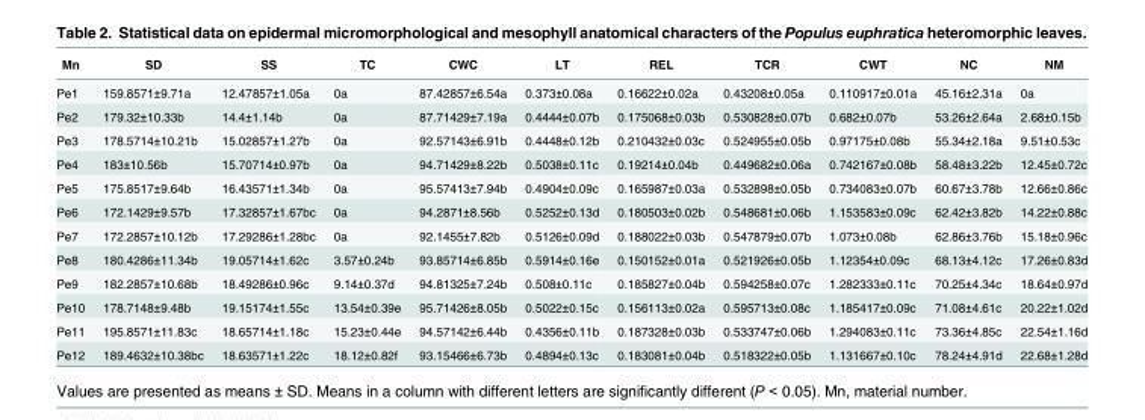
<table><thead><tr><td>Mn</td><td>SD</td><td>SS</td><td>TC</td><td>CWC</td><td>LT</td><td>REL</td><td>TCR</td><td>CWT</td><td>NC</td><td>NM</td></tr></thead><tbody><tr><td>Pe1</td><td>159.8571±9.71a</td><td>12.47857±1.05a</td><td>0a</td><td>87.42857±6.54a</td><td>0.373±0.08a</td><td>0.16622±0.02a</td><td>0.43208±0.05a</td><td>0.110917±0.01a</td><td>45.16±2.31a</td><td>0a</td></tr><tr><td>Pe2</td><td>179.32±10.33b</td><td>14.4±1.14b</td><td>0a</td><td>87.71429±7.19a</td><td>0.4444±0.07b</td><td>0.175068±0.03b</td><td>0.530828±0.07b</td><td>0.682±0.07b</td><td>53.26±2.64a</td><td>2.68±0.15b</td></tr><tr><td>Pe3</td><td>178.5714±10.21b</td><td>15.02857±1.27b</td><td>0a</td><td>92.57143±6.91b</td><td>0.4448±0.12b</td><td>0.210432±0.03c</td><td>0.524955±0.05b</td><td>0.97175±0.08b</td><td>55.34±2.18a</td><td>9.51±0.53c</td></tr><tr><td>Pe4</td><td>183±10.56b</td><td>15.70714±0.97b</td><td>0a</td><td>94.71429±8.22b</td><td>0.5038±0.11c</td><td>0.19214±0.04b</td><td>0.449682±0.06a</td><td>0.742167±0.08b</td><td>58.48±3.22b</td><td>12.45±0.72c</td></tr><tr><td>Pe5</td><td>175.8517±9.64b</td><td>16.43571±1.34b</td><td>0a</td><td>95.57413±7.94b</td><td>0.4904±0.09c</td><td>0.165987±0.03a</td><td>0.532898±0.05b</td><td>0.734083±0.07b</td><td>60.67±3.78b</td><td>12.66±0.86c</td></tr><tr><td>Pe6</td><td>172.1429±9.57b</td><td>17.32857±1.67bc</td><td>0a</td><td>94.2871±8.56b</td><td>0.5252±0.13d</td><td>0.180503±0.02b</td><td>0.548681±0.06b</td><td>1.153583±0.09c</td><td>62.42±3.82b</td><td>14.22±0.88c</td></tr><tr><td>Pe7</td><td>172.2857±10.12b</td><td>17.29286±1.28bc</td><td>0a</td><td>92.1455±7.82b</td><td>0.5126±0.09d</td><td>0.188022±0.03b</td><td>0.547879±0.07b</td><td>1.073±0.08b</td><td>62.86±3.76b</td><td>15.18±0.96c</td></tr><tr><td>Pe8</td><td>180.4286±11.34b</td><td>19.05714±1.62c</td><td>3.57±0.24b</td><td>93.85714±6.85b</td><td>0.5914±0.16e</td><td>0.150152±0.01a</td><td>0.521926±0.05b</td><td>1.12354±0.09c</td><td>68.13±4.12c</td><td>17.26±0.83d</td></tr><tr><td>Pe9</td><td>182.2857±10.68b</td><td>18.49286±0.96c</td><td>9.14±0.37d</td><td>94.81325±7.24b</td><td>0.508±0.11c</td><td>0.185827±0.04b</td><td>0.594258±0.07c</td><td>1.282333±0.11c</td><td>70.25±4.34c</td><td>18.64±0.97d</td></tr><tr><td>Pe10</td><td>178.7148±9.48b</td><td>19.15174±1.55c</td><td>13.54±0.39e</td><td>95.71426±8.05b</td><td>0.5022±0.15c</td><td>0.156113±0.02a</td><td>0.595713±0.08c</td><td>1.185417±0.09c</td><td>71.08±4.61c</td><td>20.22±1.02d</td></tr><tr><td>Pe11</td><td>195.8571±11.83c</td><td>18.65714±1.18c</td><td>15.23±0.44e</td><td>94.57142±6.44b</td><td>0.4356±0.11b</td><td>0.187328±0.03b</td><td>0.533747±0.06b</td><td>1.294083±0.11c</td><td>73.36±4.85c</td><td>22.54±1.16d</td></tr><tr><td>Pe12</td><td>189.4632±10.38bc</td><td>18.63571±1.22c</td><td>18.12±0.82f</td><td>93.15466±6.73b</td><td>0.4894±0.13c</td><td>0.183081±0.04b</td><td>0.518322±0.05b</td><td>1.131667±0.10c</td><td>78.24±4.91d</td><td>22.68±1.28d</td></tr></tbody></table>